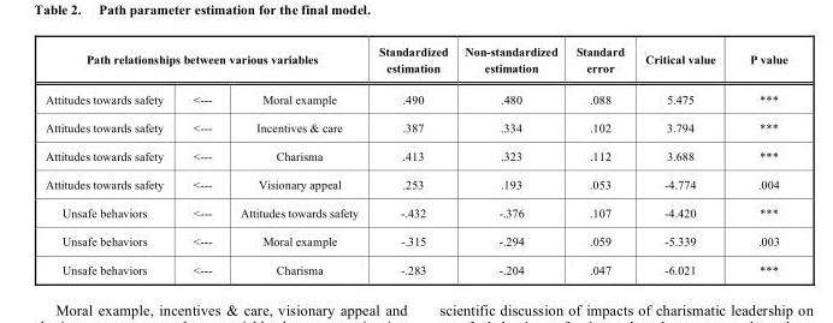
<table><thead><tr><td colspan="3">Path relationships between various variables</td><td rowspan="2">Standardized estimation .490</td><td rowspan="2">Non-standardized estimation .480</td><td rowspan="2">Standard error .088</td><td rowspan="2">Critical value 5.475</td><td rowspan="2">P value ***</td></tr><tr><td>Attitudes towards safety</td><td>&lt;---</td><td>Moral example</td></tr></thead><tbody><tr><td>Attitudes towards safety</td><td>&lt;---</td><td>Incentives &amp; care</td><td>.387</td><td>.334</td><td>.102</td><td>3.794</td><td>***</td></tr><tr><td>Attitudes towards safety</td><td>&lt;---</td><td>Charisma</td><td>.413</td><td>.323</td><td>.112</td><td>3.688</td><td>***</td></tr><tr><td>Attitudes towards safety</td><td>&lt;---</td><td>Visionary appeal</td><td>.253</td><td>.193</td><td>.053</td><td>-4.774</td><td>.004</td></tr><tr><td>Unsafe behaviors</td><td>&lt;---</td><td>Attitudes towards safety</td><td>-.432</td><td>-.376</td><td>.107</td><td>-4.420</td><td>***</td></tr><tr><td>Unsafe behaviors</td><td>&lt;---</td><td>Moral example</td><td>-.315</td><td>-.294</td><td>.059</td><td>-5.339</td><td>.003</td></tr><tr><td>Unsafe behaviors</td><td>&lt;---</td><td>Charisma</td><td>-.283</td><td>-.204</td><td>.047</td><td>-6.021</td><td>***</td></tr></tbody></table>